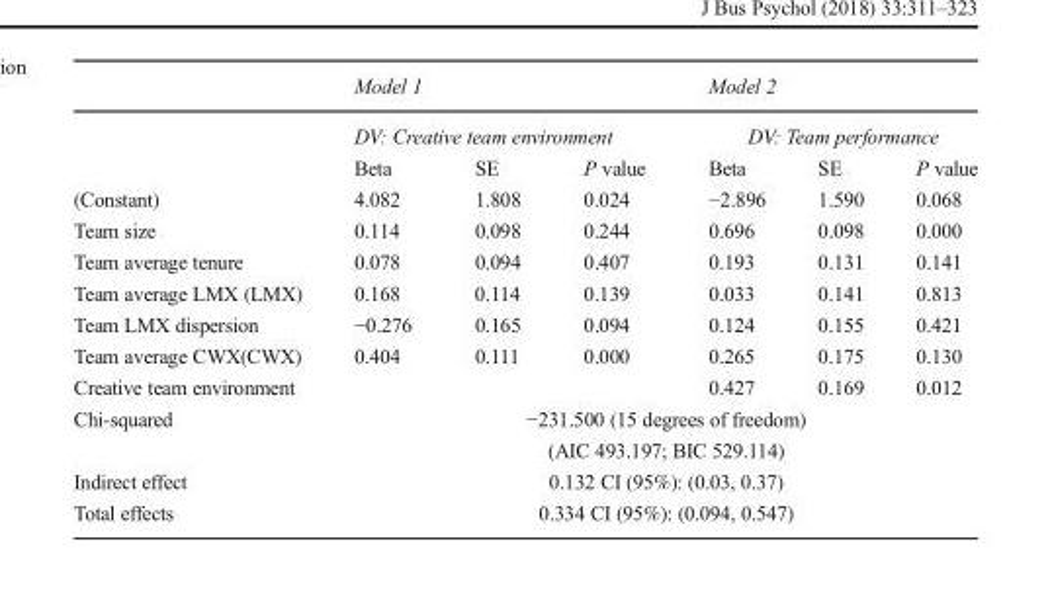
<table><thead><tr><td rowspan="3"></td><td rowspan="2" colspan="3">Model 1 DV: Creative team environment</td><td rowspan="2" colspan="3">Model 2 DV: Team performance</td></tr><tr></tr><tr><td>Beta</td><td>SE</td><td>P value</td><td>Beta</td><td>SE</td><td>P value</td></tr></thead><tbody><tr><td>(Constant)</td><td>4.082</td><td>1.808</td><td>0.024</td><td>−2.896</td><td>1.590</td><td>0.068</td></tr><tr><td>Team size</td><td>0.114</td><td>0.098</td><td>0.244</td><td>0.696</td><td>0.098</td><td>0.000</td></tr><tr><td>Team average tenure</td><td>0.078</td><td>0.094</td><td>0.407</td><td>0.193</td><td>0.131</td><td>0.141</td></tr><tr><td>Team average LMX (LMX)</td><td>0.168</td><td>0.114</td><td>0.139</td><td>0.033</td><td>0.141</td><td>0.813</td></tr><tr><td>Team LMX dispersion</td><td>−0.276</td><td>0.165</td><td>0.094</td><td>0.124</td><td>0.155</td><td>0.421</td></tr><tr><td>Team average CWX(CWX)</td><td>0.404</td><td>0.111</td><td>0.000</td><td>0.265</td><td>0.175</td><td>0.130</td></tr><tr><td>Creative team environment</td><td></td><td></td><td></td><td>0.427</td><td>0.169</td><td>0.012</td></tr><tr><td rowspan="2">Chi-squared</td><td colspan="6">−231.500 (15 degrees of freedom)</td></tr><tr><td colspan="6">(AIC 493.197; BIC 529.114)</td></tr><tr><td>Indirect effect</td><td colspan="6">0.132 CI (95%): (0.03, 0.37)</td></tr><tr><td>Total effects</td><td colspan="6">0.334 CI (95%): (0.094, 0.547)</td></tr></tbody></table>